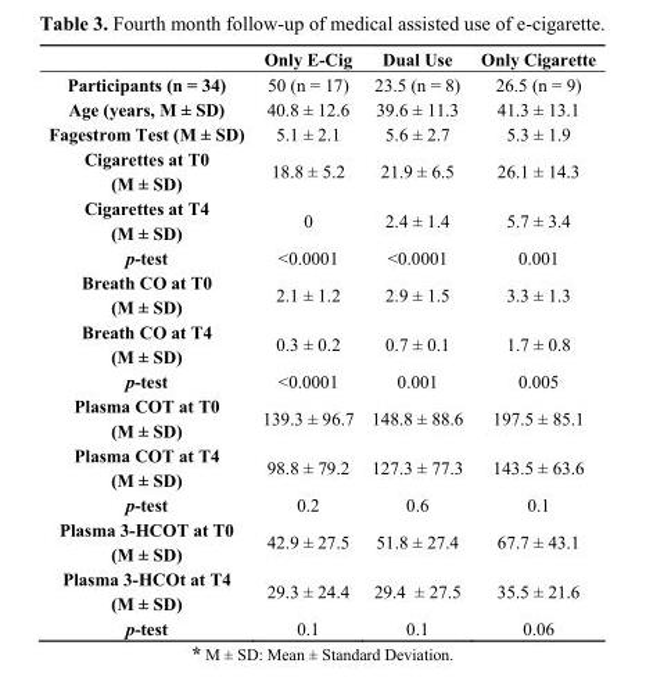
<table><thead><tr><td></td><td>Only E-Cig</td><td>Dual Use</td><td>Only Cigarette</td></tr></thead><tbody><tr><td>Participants (n = 34)</td><td>50 (n = 17)</td><td>23.5 (n = 8)</td><td>26.5 (n = 9)</td></tr><tr><td>Age (years, M ± SD)</td><td>40.8 ± 12.6</td><td>39.6 ± 11.3</td><td>41.3 ± 13.1</td></tr><tr><td>Fagestrom Test (M ± SD)</td><td>5.1 ± 2.1</td><td>5.6 ± 2.7</td><td>5.3 ± 1.9</td></tr><tr><td>Cigarettes at T0 (M ± SD)</td><td>18.8 ± 5.2</td><td>21.9 ± 6.5</td><td>26.1 ± 14.3</td></tr><tr><td>Cigarettes at T4 (M ± SD)</td><td>0</td><td>2.4 ± 1.4</td><td>5.7 ± 3.4</td></tr><tr><td>p-test</td><td>&lt;0.0001</td><td>&lt;0.0001</td><td>0.001</td></tr><tr><td>Breath CO at T0 (M ± SD)</td><td>2.1 ± 1.2</td><td>2.9 ± 1.5</td><td>3.3 ± 1.3</td></tr><tr><td>Breath CO at T4 (M ± SD)</td><td>0.3 ± 0.2</td><td>0.7 ± 0.1</td><td>1.7 ± 0.8</td></tr><tr><td>p-test</td><td>&lt;0.0001</td><td>0.001</td><td>0.005</td></tr><tr><td>Plasma COT at T0 (M ± SD)</td><td>139.3 ± 96.7</td><td>148.8 ± 88.6</td><td>197.5 ± 85.1</td></tr><tr><td>Plasma COT at T4 (M ± SD)</td><td>98.8 ± 79.2</td><td>127.3 ± 77.3</td><td>143.5 ± 63.6</td></tr><tr><td>p-test</td><td>0.2</td><td>0.6</td><td>0.1</td></tr><tr><td>Plasma 3-HCOT at T0 (M ± SD)</td><td>42.9 ± 27.5</td><td>51.8 ± 27.4</td><td>67.7 ± 43.1</td></tr><tr><td>Plasma 3-HCOt at T4 (M ± SD)</td><td>29.3 ± 24.4</td><td>29.4 ± 27.5</td><td>35.5 ± 21.6</td></tr><tr><td>p-test</td><td>0.1</td><td>0.1</td><td>0.06</td></tr></tbody></table>